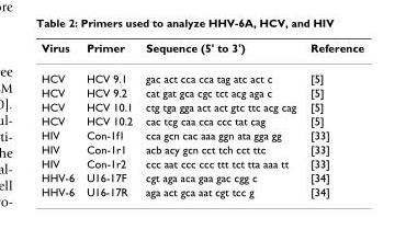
<table><thead><tr><td>Virus</td><td>Primer</td><td>Sequence (5&#x27; to 3&#x27;)</td><td>Reference</td></tr></thead><tbody><tr><td>HCV</td><td>HCV 9.1</td><td>gac act cca cca tag atc act c</td><td>[5]</td></tr><tr><td>HCV</td><td>HCV 9.2</td><td>cat gat gca cgc tct acg aga c</td><td>[5]</td></tr><tr><td>HCV</td><td>HCV 10.1</td><td>ctg tga gga act act gtc ttc acg cag</td><td>[5]</td></tr><tr><td>HCV</td><td>HCV 10.2</td><td>cac tcg caa cca ccc tat cag</td><td>[5]</td></tr><tr><td>HIV</td><td>Con-1f1</td><td>cca gcn cac aaa ggn ata gga gg</td><td>[33]</td></tr><tr><td>HIV</td><td>Con-1r1</td><td>acb acy gcn cct tch cct ttc</td><td>[33]</td></tr><tr><td>HIV</td><td>Con-1r2</td><td>ccc aat ccc ccc ttt tct tta aaa tt</td><td>[33]</td></tr><tr><td>HHV-6</td><td>U16-17F</td><td>cgt aga aca gaa gac cgg c</td><td>[34]</td></tr><tr><td>HHV-6</td><td>U16-17R</td><td>aga act gca aat cgt tcc g</td><td>[34]</td></tr></tbody></table>